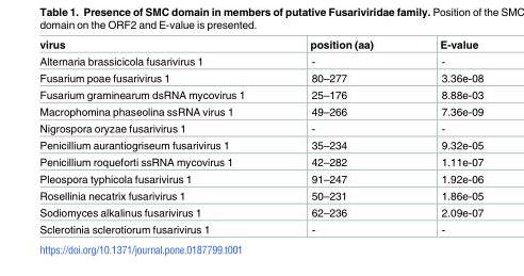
<table><thead><tr><td>virus</td><td>position (aa)</td><td>E-value</td></tr></thead><tbody><tr><td>Alternaria brassicicola fusarivirus 1</td><td>-</td><td>-</td></tr><tr><td>Fusarium poae fusarivirus 1</td><td>80–277</td><td>3.36e-08</td></tr><tr><td>Fusarium graminearum dsRNA mycovirus 1</td><td>25–176</td><td>8.88e-03</td></tr><tr><td>Macrophomina phaseolina ssRNA virus 1</td><td>49–266</td><td>7.36e-09</td></tr><tr><td>Nigrospora oryzae fusarivirus 1</td><td>-</td><td>-</td></tr><tr><td>Penicillium aurantiogriseum fusarivirus 1</td><td>35–234</td><td>9.32e-05</td></tr><tr><td>Penicillium roqueforti ssRNA mycovirus 1</td><td>42–282</td><td>1.11e-07</td></tr><tr><td>Pleospora typhicola fusarivirus 1</td><td>91–247</td><td>1.92e-06</td></tr><tr><td>Rosellinia necatrix fusarivirus 1</td><td>50–231</td><td>1.86e-05</td></tr><tr><td>Sodiomyces alkalinus fusarivirus 1</td><td>62–236</td><td>2.09e-07</td></tr><tr><td>Sclerotinia sclerotiorum fusarivirus 1</td><td>-</td><td>-</td></tr></tbody></table>